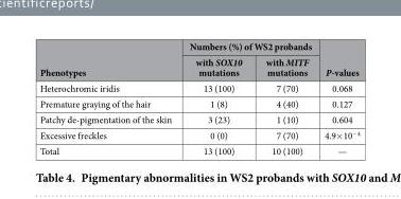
<table><thead><tr><td rowspan="2">Phenotypes</td><td colspan="2">Numbers (%) of WS2 probands</td><td rowspan="2">P-values</td></tr><tr><td>with SOX10 mutations</td><td>with MITF mutations</td></tr></thead><tbody><tr><td>Heterochromic iridis</td><td>13 (100)</td><td>7 (70)</td><td>0.068</td></tr><tr><td>Premature graying of the hair</td><td>1 (8)</td><td>4 (40)</td><td>0.127</td></tr><tr><td>Patchy de-pigmentation of the skin</td><td>3 (23)</td><td>1 (10)</td><td>0.604</td></tr><tr><td>Excessive freckles</td><td>0 (0)</td><td>7 (70)</td><td>4.9× 10 −4</td></tr><tr><td>Total</td><td>13 (100)</td><td>10 (100)</td><td>—</td></tr></tbody></table>